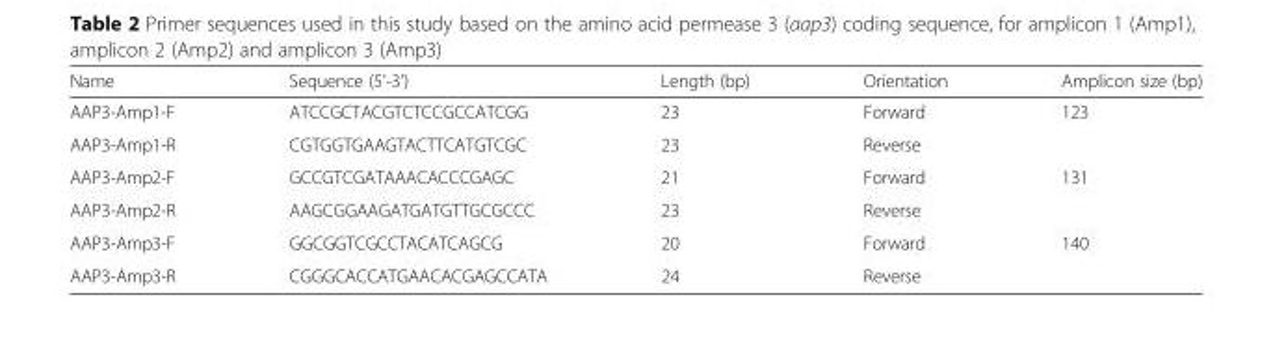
<table><thead><tr><td>Name</td><td>Sequence (5&#x27;-3&#x27;)</td><td>Length (bp)</td><td>Orientation</td><td>Amplicon size (bp)</td></tr></thead><tbody><tr><td>AAP3-Amp1-F</td><td>ATCCGCTACGTCTCCGCCATCGG</td><td>23</td><td>Forward</td><td rowspan="2">123</td></tr><tr><td>AAP3-Amp1-R</td><td>CGTGGTGAAGTACTTCATGTCGC</td><td>23</td><td>Reverse</td></tr><tr><td>AAP3-Amp2-F</td><td>GCCGTCGATAAACACCCGAGC</td><td>21</td><td>Forward</td><td rowspan="2">131</td></tr><tr><td>AAP3-Amp2-R</td><td>AAGCGGAAGATGATGTTGCGCCC</td><td>23</td><td>Reverse</td></tr><tr><td>AAP3-Amp3-F</td><td>GGCGGTCGCCTACATCAGCG</td><td>20</td><td>Forward</td><td rowspan="2">140</td></tr><tr><td>AAP3-Amp3-R</td><td>CGGGCACCATGAACACGAGCCATA</td><td>24</td><td>Reverse</td></tr></tbody></table>